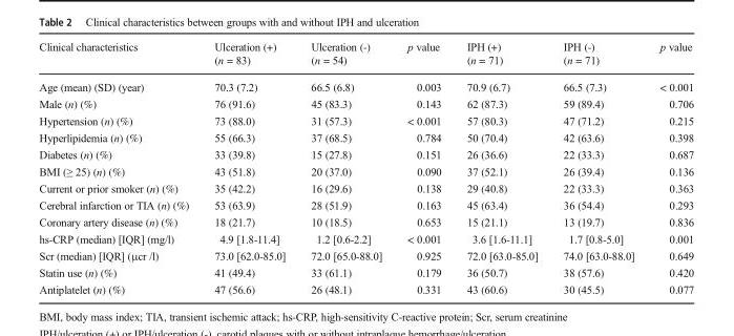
<table><thead><tr><td>Clinical characteristics</td><td>Ulceration (+) (n = 83)</td><td>Ulceration (-) (n = 54)</td><td>p value</td><td>IPH (+) (n = 71)</td><td>IPH (-) (n = 71)</td><td>p value</td></tr></thead><tbody><tr><td>Age (mean) (SD) (year)</td><td>70.3 (7.2)</td><td>66.5 (6.8)</td><td>0.003</td><td>70.9 (6.7)</td><td>66.5 (7.3)</td><td>&lt; 0.001</td></tr><tr><td>Male (n) (%)</td><td>76 (91.6)</td><td>45 (83.3)</td><td>0.143</td><td>62 (87.3)</td><td>59 (89.4)</td><td>0.706</td></tr><tr><td>Hypertension (n) (%)</td><td>73 (88.0)</td><td>31 (57.3)</td><td>&lt; 0.001</td><td>57 (80.3)</td><td>47 (71.2)</td><td>0.215</td></tr><tr><td>Hyperlipidemia (n) (%)</td><td>55 (66.3)</td><td>37 (68.5)</td><td>0.784</td><td>50 (70.4)</td><td>42 (63.6)</td><td>0.398</td></tr><tr><td>Diabetes (n) (%)</td><td>33 (39.8)</td><td>15 (27.8)</td><td>0.151</td><td>26 (36.6)</td><td>22 (33.3)</td><td>0.687</td></tr><tr><td>BMI (≥ 25) (n) (%)</td><td>43 (51.8)</td><td>20 (37.0)</td><td>0.090</td><td>37 (52.1)</td><td>26 (39.4)</td><td>0.136</td></tr><tr><td>Current or prior smoker (n) (%)</td><td>35 (42.2)</td><td>16 (29.6)</td><td>0.138</td><td>29 (40.8)</td><td>22 (33.3)</td><td>0.363</td></tr><tr><td>Cerebral infarction or TIA (n) (%)</td><td>53 (63.9)</td><td>28 (51.9)</td><td>0.163</td><td>45 (63.4)</td><td>36 (54.4)</td><td>0.293</td></tr><tr><td>Coronary artery disease (n) (%)</td><td>18 (21.7)</td><td>10 (18.5)</td><td>0.653</td><td>15 (21.1)</td><td>13 (19.7)</td><td>0.836</td></tr><tr><td>hs-CRP (median) [IQR] (mg/l)</td><td>4.9 [1.8-11.4]</td><td>1.2 [0.6-2.2]</td><td>&lt; 0.001</td><td>3.6 [1.6-11.1]</td><td>1.7 [0.8-5.0]</td><td>0.001</td></tr><tr><td>Scr (median) [IQR] (μcr /l)</td><td>73.0 [62.0-85.0]</td><td>72.0 [65.0-88.0]</td><td>0.925</td><td>72.0 [63.0-85.0]</td><td>74.0 [63.0-88.0]</td><td>0.649</td></tr><tr><td>Statin use (n) (%)</td><td>41 (49.4)</td><td>33 (61.1)</td><td>0.179</td><td>36 (50.7)</td><td>38 (57.6)</td><td>0.420</td></tr><tr><td>Antiplatelet (n) (%)</td><td>47 (56.6)</td><td>26 (48.1)</td><td>0.331</td><td>43 (60.6)</td><td>30 (45.5)</td><td>0.077</td></tr></tbody></table>